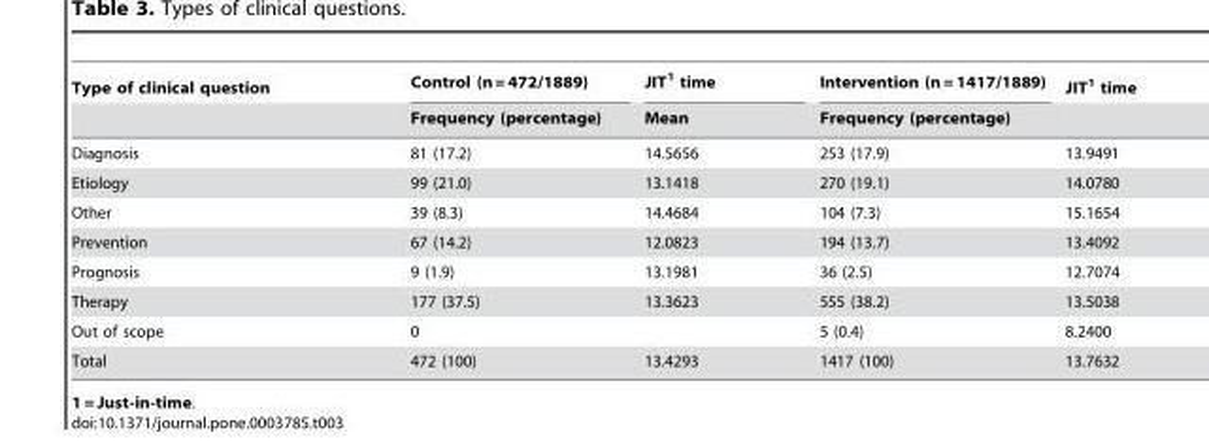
<table><thead><tr><td rowspan="2">Type of clinical question</td><td rowspan="2">Control (n = 472/1889) Frequency (percentage)</td><td rowspan="2">JIT<sup>1</sup> time Mean</td><td rowspan="2">Intervention (n = 1417/1889) Frequency (percentage)</td><td rowspan="2">JIT<sup>1</sup> time</td></tr><tr></tr></thead><tbody><tr><td>Diagnosis</td><td>81 (17.2)</td><td>14.5656</td><td>253 (17.9)</td><td>13.9491</td></tr><tr><td>Etiology</td><td>99 (21.0)</td><td>13.1418</td><td>270 (19.1)</td><td>14.0780</td></tr><tr><td>Other</td><td>39 (8.3)</td><td>14.4684</td><td>104 (7.3)</td><td>15.1654</td></tr><tr><td>Prevention</td><td>67 (14.2)</td><td>12.0823</td><td>194 (13.7)</td><td>13.4092</td></tr><tr><td>Prognosis</td><td>9 (1.9)</td><td>13.1981</td><td>36 (2.5)</td><td>12.7074</td></tr><tr><td>Therapy</td><td>177 (37.5)</td><td>13.3623</td><td>555 (38.2)</td><td>13.5038</td></tr><tr><td>Out of scope</td><td>0</td><td></td><td>5 (0.4)</td><td>8.2400</td></tr><tr><td>Total</td><td>472 (100)</td><td>13.4293</td><td>1417 (100)</td><td>13.7632</td></tr></tbody></table>